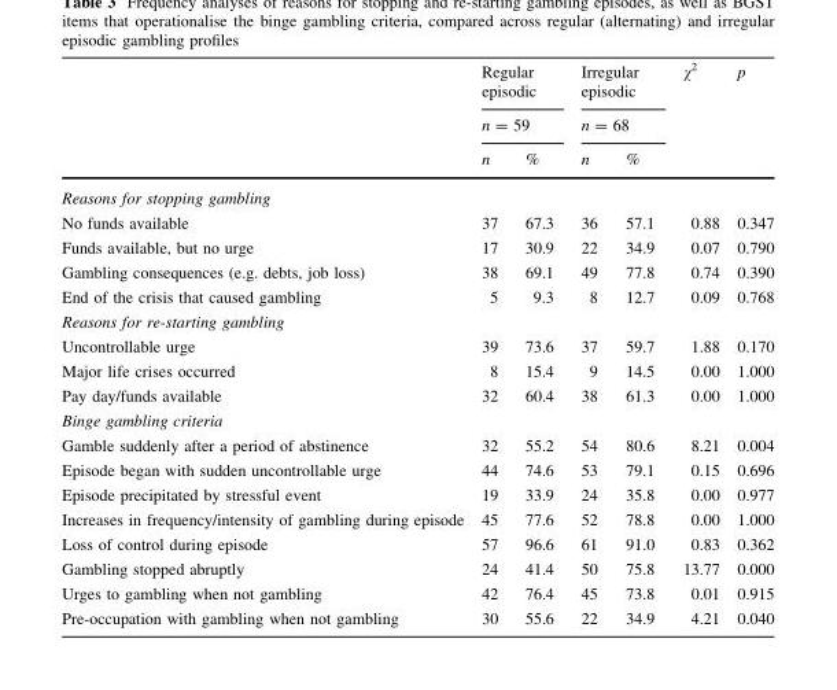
<table><thead><tr><td rowspan="3"></td><td rowspan="2" colspan="2">Regular episodic n = 59</td><td rowspan="2" colspan="2">Irregular episodic n = 68</td><td rowspan="3">χ<sup>2</sup></td><td rowspan="3">p</td></tr><tr></tr><tr><td>n</td><td>%</td><td>n</td><td>%</td></tr></thead><tbody><tr><td colspan="7">Reasons for stopping gambling</td></tr><tr><td>No funds available</td><td>37</td><td>67.3</td><td>36</td><td>57.1</td><td>0.88</td><td>0.347</td></tr><tr><td>Funds available, but no urge</td><td>17</td><td>30.9</td><td>22</td><td>34.9</td><td>0.07</td><td>0.790</td></tr><tr><td>Gambling consequences (e.g. debts, job loss)</td><td>38</td><td>69.1</td><td>49</td><td>77.8</td><td>0.74</td><td>0.390</td></tr><tr><td>End of the crisis that caused gambling</td><td>5</td><td>9.3</td><td>8</td><td>12.7</td><td>0.09</td><td>0.768</td></tr><tr><td colspan="7">Reasons for re-starting gambling</td></tr><tr><td>Uncontrollable urge</td><td>39</td><td>73.6</td><td>37</td><td>59.7</td><td>1.88</td><td>0.170</td></tr><tr><td>Major life crises occurred</td><td>8</td><td>15.4</td><td>9</td><td>14.5</td><td>0.00</td><td>1.000</td></tr><tr><td>Pay day/funds available</td><td>32</td><td>60.4</td><td>38</td><td>61.3</td><td>0.00</td><td>1.000</td></tr><tr><td colspan="7">Binge gambling criteria</td></tr><tr><td>Gamble suddenly after a period of abstinence</td><td>32</td><td>55.2</td><td>54</td><td>80.6</td><td>8.21</td><td>0.004</td></tr><tr><td>Episode began with sudden uncontrollable urge</td><td>44</td><td>74.6</td><td>53</td><td>79.1</td><td>0.15</td><td>0.696</td></tr><tr><td>Episode precipitated by stressful event</td><td>19</td><td>33.9</td><td>24</td><td>35.8</td><td>0.00</td><td>0.977</td></tr><tr><td>Increases in frequency/intensity of gambling during episode</td><td>45</td><td>77.6</td><td>52</td><td>78.8</td><td>0.00</td><td>1.000</td></tr><tr><td>Loss of control during episode</td><td>57</td><td>96.6</td><td>61</td><td>91.0</td><td>0.83</td><td>0.362</td></tr><tr><td>Gambling stopped abruptly</td><td>24</td><td>41.4</td><td>50</td><td>75.8</td><td>13.77</td><td>0.000</td></tr><tr><td>Urges to gambling when not gambling</td><td>42</td><td>76.4</td><td>45</td><td>73.8</td><td>0.01</td><td>0.915</td></tr><tr><td>Pre-occupation with gambling when not gambling</td><td>30</td><td>55.6</td><td>22</td><td>34.9</td><td>4.21</td><td>0.040</td></tr></tbody></table>